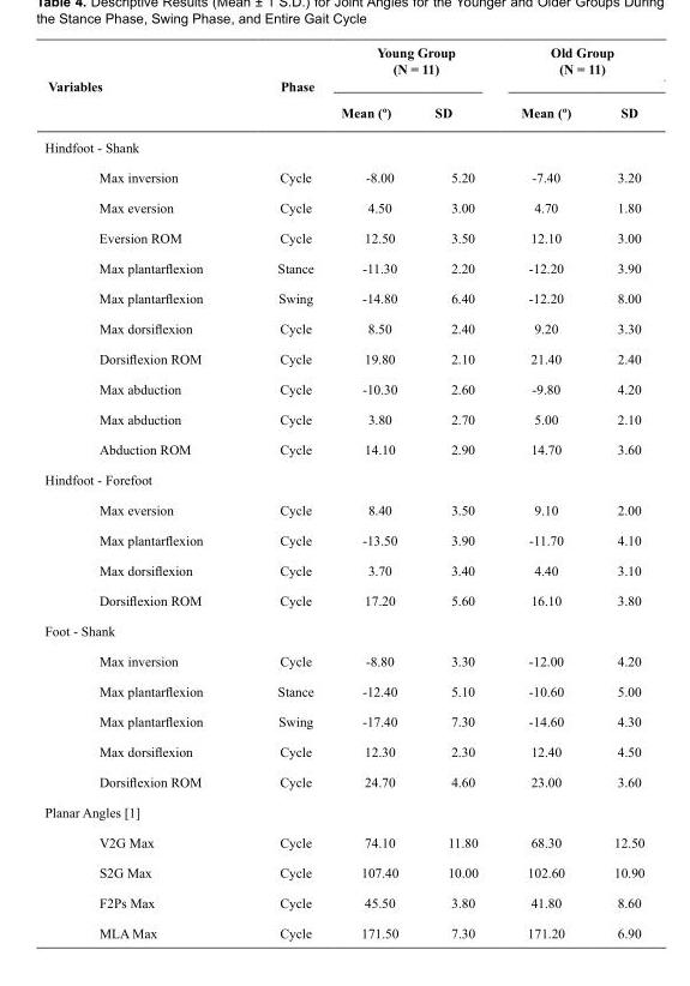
<table><thead><tr><td rowspan="2">Variables</td><td rowspan="2">Phase</td><td colspan="2">Young Group (N = 11)</td><td colspan="2">Old Group (N = 11)</td></tr><tr><td>Mean (º)</td><td>SD</td><td>Mean (º)</td><td>SD</td></tr></thead><tbody><tr><td colspan="6">Hindfoot - Shank</td></tr><tr><td>Max inversion</td><td>Cycle</td><td>-8.00</td><td>5.20</td><td>-7.40</td><td>3.20</td></tr><tr><td>Max eversion</td><td>Cycle</td><td>4.50</td><td>3.00</td><td>4.70</td><td>1.80</td></tr><tr><td>Eversion ROM</td><td>Cycle</td><td>12.50</td><td>3.50</td><td>12.10</td><td>3.00</td></tr><tr><td>Max plantarflexion</td><td>Stance</td><td>-11.30</td><td>2.20</td><td>-12.20</td><td>3.90</td></tr><tr><td>Max plantarflexion</td><td>Swing</td><td>-14.80</td><td>6.40</td><td>-12.20</td><td>8.00</td></tr><tr><td>Max dorsiflexion</td><td>Cycle</td><td>8.50</td><td>2.40</td><td>9.20</td><td>3.30</td></tr><tr><td>Dorsiflexion ROM</td><td>Cycle</td><td>19.80</td><td>2.10</td><td>21.40</td><td>2.40</td></tr><tr><td>Max abduction</td><td>Cycle</td><td>-10.30</td><td>2.60</td><td>-9.80</td><td>4.20</td></tr><tr><td>Max abduction</td><td>Cycle</td><td>3.80</td><td>2.70</td><td>5.00</td><td>2.10</td></tr><tr><td>Abduction ROM</td><td>Cycle</td><td>14.10</td><td>2.90</td><td>14.70</td><td>3.60</td></tr><tr><td colspan="6">Hindfoot - Forefoot</td></tr><tr><td>Max eversion</td><td>Cycle</td><td>8.40</td><td>3.50</td><td>9.10</td><td>2.00</td></tr><tr><td>Max plantarflexion</td><td>Cycle</td><td>-13.50</td><td>3.90</td><td>-11.70</td><td>4.10</td></tr><tr><td>Max dorsiflexion</td><td>Cycle</td><td>3.70</td><td>3.40</td><td>4.40</td><td>3.10</td></tr><tr><td>Dorsiflexion ROM</td><td>Cycle</td><td>17.20</td><td>5.60</td><td>16.10</td><td>3.80</td></tr><tr><td colspan="6">Foot - Shank</td></tr><tr><td>Max inversion</td><td>Cycle</td><td>-8.80</td><td>3.30</td><td>-12.00</td><td>4.20</td></tr><tr><td>Max plantarflexion</td><td>Stance</td><td>-12.40</td><td>5.10</td><td>-10.60</td><td>5.00</td></tr><tr><td>Max plantarflexion</td><td>Swing</td><td>-17.40</td><td>7.30</td><td>-14.60</td><td>4.30</td></tr><tr><td>Max dorsiflexion</td><td>Cycle</td><td>12.30</td><td>2.30</td><td>12.40</td><td>4.50</td></tr><tr><td>Dorsiflexion ROM</td><td>Cycle</td><td>24.70</td><td>4.60</td><td>23.00</td><td>3.60</td></tr><tr><td colspan="6">Planar Angles [1]</td></tr><tr><td>V2G Max</td><td>Cycle</td><td>74.10</td><td>11.80</td><td>68.30</td><td>12.50</td></tr><tr><td>S2G Max</td><td>Cycle</td><td>107.40</td><td>10.00</td><td>102.60</td><td>10.90</td></tr><tr><td>F2Ps Max</td><td>Cycle</td><td>45.50</td><td>3.80</td><td>41.80</td><td>8.60</td></tr><tr><td>MLA Max</td><td>Cycle</td><td>171.50</td><td>7.30</td><td>171.20</td><td>6.90</td></tr></tbody></table>